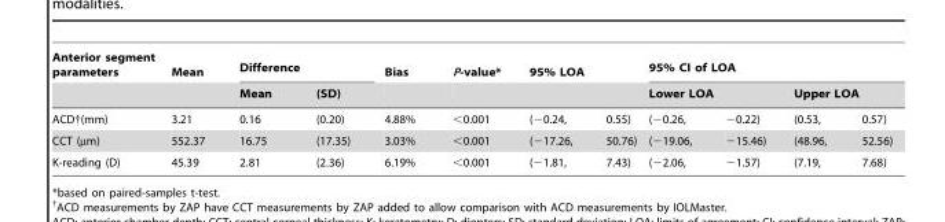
<table><thead><tr><td rowspan="3">Anterior segment parameters ACD†(mm)</td><td rowspan="3">Mean 3.21</td><td colspan="2">Difference</td><td rowspan="3">Bias 4.88%</td><td rowspan="3">P-value* &lt;0.001</td><td colspan="2">95% LOA</td><td colspan="4">95% CI of LOA</td></tr><tr><td rowspan="2">Mean 0.16</td><td rowspan="2">(SD) (0.20)</td><td rowspan="2">(−0.24,</td><td rowspan="2">0.55)</td><td colspan="2">Lower LOA</td><td colspan="2">Upper LOA</td></tr><tr><td>(−0.26,</td><td>−0.22)</td><td>(0.53,</td><td>0.57)</td></tr></thead><tbody><tr><td>CCT (µm)</td><td>552.37</td><td>16.75</td><td>(17.35)</td><td>3.03%</td><td>&lt;0.001</td><td>(−17.26,</td><td>50.76)</td><td>(−19.06,</td><td>−15.46)</td><td>(48.96,</td><td>52.56)</td></tr><tr><td>K-reading (D)</td><td>45.39</td><td>2.81</td><td>(2.36)</td><td>6.19%</td><td>&lt;0.001</td><td>(−1.81,</td><td>7.43)</td><td>(−2.06,</td><td>−1.57)</td><td>(7.19,</td><td>7.68)</td></tr></tbody></table>